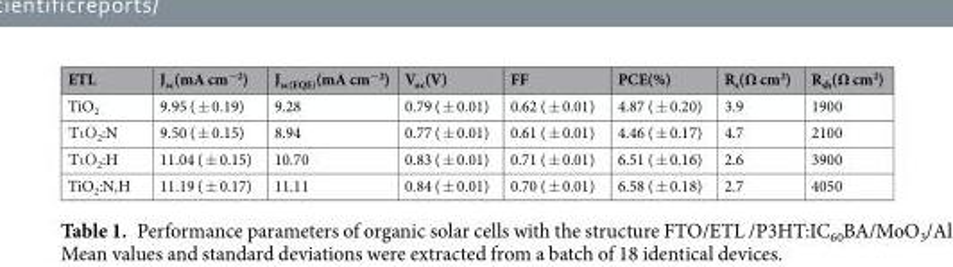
<table><thead><tr><td>ETL</td><td>J<sub>sc</sub>(mA cm<sup>−2</sup>)</td><td>J<sub>sc(EQE)</sub>(mA cm<sup>−2</sup>)</td><td>V<sub>oc</sub>(V)</td><td>FF</td><td>PCE(%)</td><td>R<sub>s</sub>(Ω cm<sup>2</sup>)</td><td>R<sub>sh</sub>(Ω cm<sup>2</sup>)</td></tr></thead><tbody><tr><td>TiO<sub>2</sub></td><td>9.95 ( ± 0.19)</td><td>9.28</td><td>0.79 ( ± 0.01)</td><td>0.62 ( ± 0.01)</td><td>4.87 ( ± 0.20)</td><td>3.9</td><td>1900</td></tr><tr><td>ΤιΟ<sub>2</sub>:N</td><td>9.50 ( ± 0.15)</td><td>8.94</td><td>0.77 ( ± 0.01)</td><td>0.61 ( ± 0.01)</td><td>4.46 ( ± 0.17)</td><td>4.7</td><td>2100</td></tr><tr><td>ΤιΟ<sub>2</sub>:H</td><td>11.04 ( ± 0.15)</td><td>10.70</td><td>0.83 ( ± 0.01)</td><td>0.71 ( ± 0.01)</td><td>6.51 ( ± 0.16)</td><td>2.6</td><td>3900</td></tr><tr><td>TiO<sub>2</sub>:N,H</td><td>11.19 ( ± 0.17)</td><td>11.11</td><td>0.84 ( ± 0.01)</td><td>0.70 ( ± 0.01)</td><td>6.58 ( ± 0.18)</td><td>2.7</td><td>4050</td></tr></tbody></table>